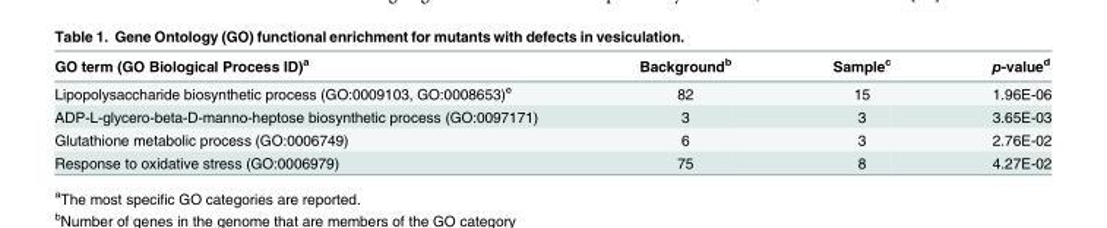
<table><thead><tr><td>GO term (GO Biological Process ID)<sup>a</sup></td><td>Background<sup>b</sup></td><td>Sample<sup>c</sup></td><td>p-value<sup>d</sup></td></tr></thead><tbody><tr><td>Lipopolysaccharide biosynthetic process (GO:0009103, GO:0008653)<sup>e</sup></td><td>82</td><td>15</td><td>1.96E-06</td></tr><tr><td>ADP-L-glycero-beta-D-manno-heptose biosynthetic process (GO:0097171)</td><td>3</td><td>3</td><td>3.65E-03</td></tr><tr><td>Glutathione metabolic process (GO:0006749)</td><td>6</td><td>3</td><td>2.76E-02</td></tr><tr><td>Response to oxidative stress (GO:0006979)</td><td>75</td><td>8</td><td>4.27E-02</td></tr></tbody></table>